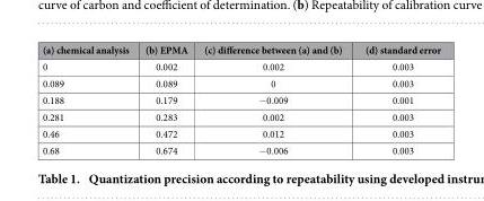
<table><thead><tr><td>(a) chemical analysis</td><td>(b) EPMA</td><td>(c) difference between (a) and (b)</td><td>(d) standard error</td></tr></thead><tbody><tr><td>0</td><td>0.002</td><td>0.002</td><td>0.003</td></tr><tr><td>0.089</td><td>0.089</td><td>0</td><td>0.003</td></tr><tr><td>0.188</td><td>0.179</td><td>− 0.009</td><td>0.001</td></tr><tr><td>0.281</td><td>0.283</td><td>0.002</td><td>0.003</td></tr><tr><td>0.46</td><td>0.472</td><td>0.012</td><td>0.003</td></tr><tr><td>0.68</td><td>0.674</td><td>− 0.006</td><td>0.003</td></tr></tbody></table>